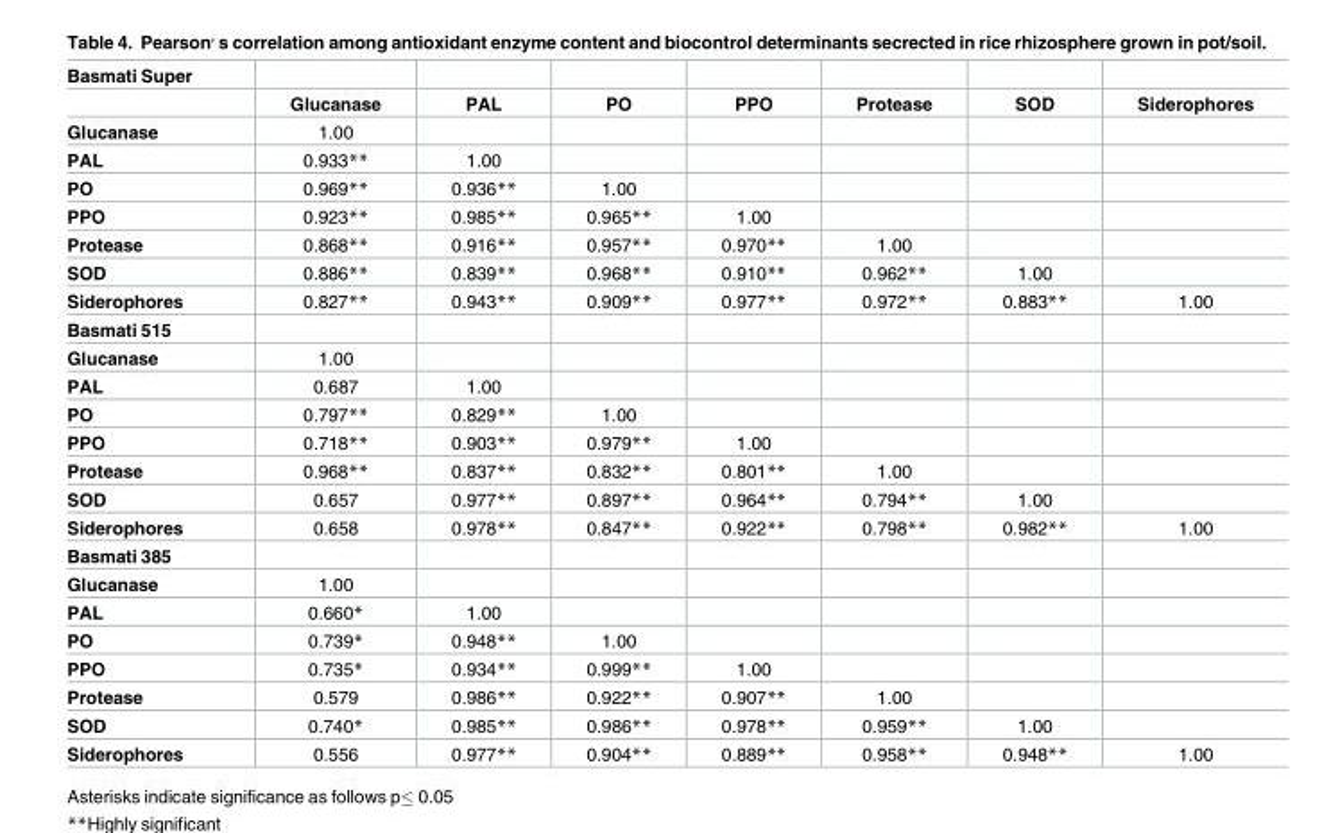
<table><thead><tr><td rowspan="2">Basmati Super</td><td rowspan="2">Glucanase</td><td rowspan="2">PAL</td><td rowspan="2">PO</td><td rowspan="2">PPO</td><td rowspan="2">Protease</td><td rowspan="2">SOD</td><td rowspan="2">Siderophores</td></tr><tr></tr></thead><tbody><tr><td>Glucanase</td><td>1.00</td><td></td><td></td><td></td><td></td><td></td><td></td></tr><tr><td>PAL</td><td>0.933**</td><td>1.00</td><td></td><td></td><td></td><td></td><td></td></tr><tr><td>PO</td><td>0.969**</td><td>0.936**</td><td>1.00</td><td></td><td></td><td></td><td></td></tr><tr><td>PPO</td><td>0.923**</td><td>0.985**</td><td>0.965**</td><td>1.00</td><td></td><td></td><td></td></tr><tr><td>Protease</td><td>0.868**</td><td>0.916**</td><td>0.957**</td><td>0.970**</td><td>1.00</td><td></td><td></td></tr><tr><td>SOD</td><td>0.886**</td><td>0.839**</td><td>0.968**</td><td>0.910**</td><td>0.962**</td><td>1.00</td><td></td></tr><tr><td>Siderophores</td><td>0.827**</td><td>0.943**</td><td>0.909**</td><td>0.977**</td><td>0.972**</td><td>0.883**</td><td>1.00</td></tr><tr><td colspan="8">Basmati 515</td></tr><tr><td>Glucanase</td><td>1.00</td><td></td><td></td><td></td><td></td><td></td><td></td></tr><tr><td>PAL</td><td>0.687</td><td>1.00</td><td></td><td></td><td></td><td></td><td></td></tr><tr><td>PO</td><td>0.797**</td><td>0.829**</td><td>1.00</td><td></td><td></td><td></td><td></td></tr><tr><td>PPO</td><td>0.718**</td><td>0.903**</td><td>0.979**</td><td>1.00</td><td></td><td></td><td></td></tr><tr><td>Protease</td><td>0.968**</td><td>0.837**</td><td>0.832**</td><td>0.801**</td><td>1.00</td><td></td><td></td></tr><tr><td>SOD</td><td>0.657</td><td>0.977**</td><td>0.897**</td><td>0.964**</td><td>0.794**</td><td>1.00</td><td></td></tr><tr><td>Siderophores</td><td>0.658</td><td>0.978**</td><td>0.847**</td><td>0.922**</td><td>0.798**</td><td>0.982**</td><td>1.00</td></tr><tr><td colspan="8">Basmati 385</td></tr><tr><td>Glucanase</td><td>1.00</td><td></td><td></td><td></td><td></td><td></td><td></td></tr><tr><td>PAL</td><td>0.660*</td><td>1.00</td><td></td><td></td><td></td><td></td><td></td></tr><tr><td>PO</td><td>0.739*</td><td>0.948**</td><td>1.00</td><td></td><td></td><td></td><td></td></tr><tr><td>PPO</td><td>0.735*</td><td>0.934**</td><td>0.999**</td><td>1.00</td><td></td><td></td><td></td></tr><tr><td>Protease</td><td>0.579</td><td>0.986**</td><td>0.922**</td><td>0.907**</td><td>1.00</td><td></td><td></td></tr><tr><td>SOD</td><td>0.740*</td><td>0.985**</td><td>0.986**</td><td>0.978**</td><td>0.959**</td><td>1.00</td><td></td></tr><tr><td>Siderophores</td><td>0.556</td><td>0.977**</td><td>0.904**</td><td>0.889**</td><td>0.958**</td><td>0.948**</td><td>1.00</td></tr></tbody></table>